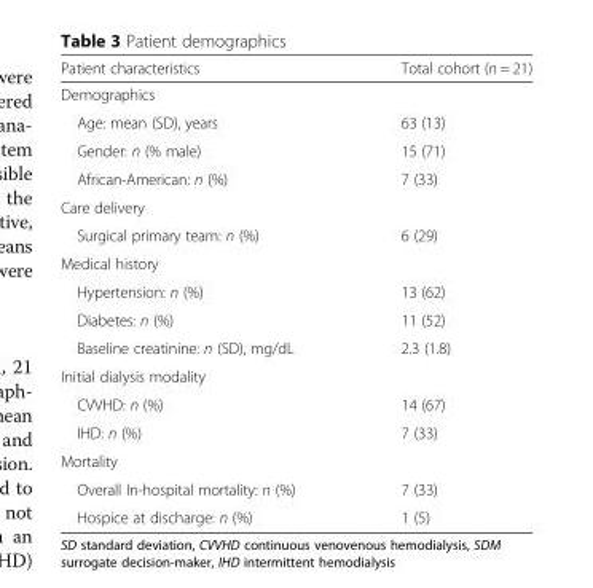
<table><thead><tr><td>Patient characteristics</td><td>Total cohort (n = 21)</td></tr></thead><tbody><tr><td colspan="2">Demographics</td></tr><tr><td>Age: mean (SD), years</td><td>63 (13)</td></tr><tr><td>Gender: n (% male)</td><td>15 (71)</td></tr><tr><td>African-American: n (%)</td><td>7 (33)</td></tr><tr><td colspan="2">Care delivery</td></tr><tr><td>Surgical primary team: n (%)</td><td>6 (29)</td></tr><tr><td colspan="2">Medical history</td></tr><tr><td>Hypertension: n (%)</td><td>13 (62)</td></tr><tr><td>Diabetes: n (%)</td><td>11 (52)</td></tr><tr><td>Baseline creatinine: n (SD), mg/dL</td><td>2.3 (1.8)</td></tr><tr><td colspan="2">Initial dialysis modality</td></tr><tr><td>CVVHD: n (%)</td><td>14 (67)</td></tr><tr><td>IHD: n (%)</td><td>7 (33)</td></tr><tr><td colspan="2">Mortality</td></tr><tr><td>Overall In-hospital mortality: n (%)</td><td>7 (33)</td></tr><tr><td>Hospice at discharge: n (%)</td><td>1 (5)</td></tr></tbody></table>